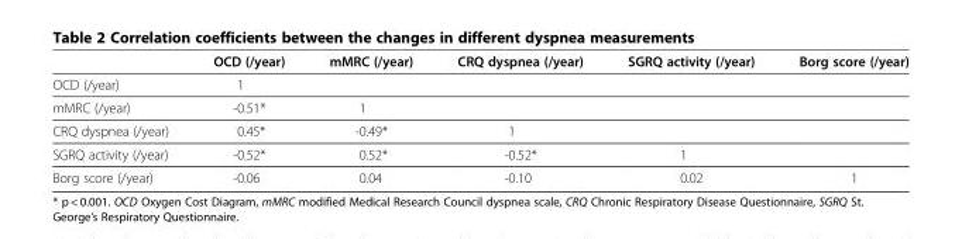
<table><thead><tr><td></td><td>OCD (/year)</td><td>mMRC (/year)</td><td>CRQ dyspnea (/year)</td><td>SGRQ activity (/year)</td><td>Borg score (/year)</td></tr></thead><tbody><tr><td>OCD (/year)</td><td>1</td><td></td><td></td><td></td><td></td></tr><tr><td>mMRC (/year)</td><td>-0.51*</td><td>1</td><td></td><td></td><td></td></tr><tr><td>CRQ dyspnea (/year)</td><td>0.45*</td><td>-0.49*</td><td>1</td><td></td><td></td></tr><tr><td>SGRQ activity (/year)</td><td>-0.52*</td><td>0.52*</td><td>-0.52*</td><td>1</td><td></td></tr><tr><td>Borg score (/year)</td><td>-0.06</td><td>0.04</td><td>-0.10</td><td>0.02</td><td>1</td></tr></tbody></table>